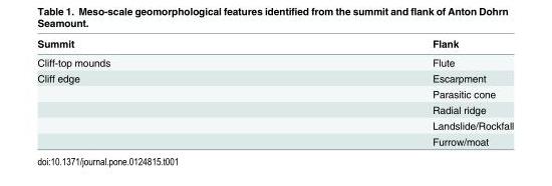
<table><thead><tr><td>Summit</td><td>Flank</td></tr></thead><tbody><tr><td>Cliff-top mounds</td><td>Flute</td></tr><tr><td rowspan="5">Cliff edge</td><td>Escarpment</td></tr><tr><td>Parasitic cone</td></tr><tr><td>Radial ridge</td></tr><tr><td>Landslide/Rockfall</td></tr><tr><td>Furrow/moat</td></tr></tbody></table>